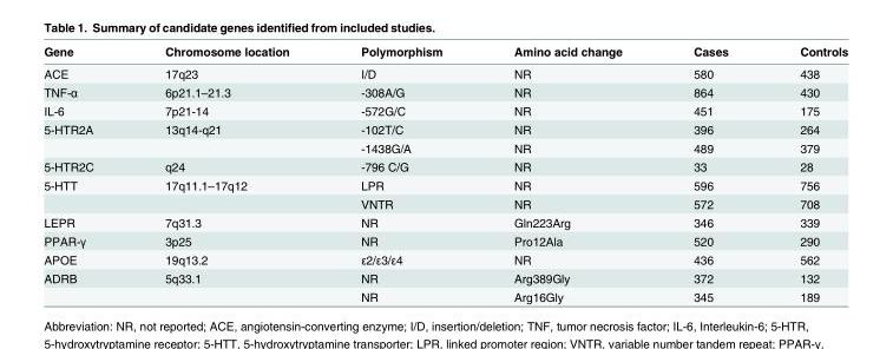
<table><thead><tr><td>Gene</td><td>Chromosome location</td><td>Polymorphism</td><td>Amino acid change</td><td>Cases</td><td>Controls</td></tr></thead><tbody><tr><td>ACE</td><td>17q23</td><td>I/D</td><td>NR</td><td>580</td><td>438</td></tr><tr><td>TNF-α</td><td>6p21.1–21.3</td><td>-308A/G</td><td>NR</td><td>864</td><td>430</td></tr><tr><td>IL-6</td><td>7p21-14</td><td>-572G/C</td><td>NR</td><td>451</td><td>175</td></tr><tr><td rowspan="2">5-HTR2A</td><td>13q14-q21</td><td>-102T/C</td><td>NR</td><td>396</td><td>264</td></tr><tr><td></td><td>-1438G/A</td><td>NR</td><td>489</td><td>379</td></tr><tr><td>5-HTR2C</td><td>q24</td><td>-796 C/G</td><td>NR</td><td>33</td><td>28</td></tr><tr><td rowspan="2">5-HTT</td><td>17q11.1–17q12</td><td>LPR</td><td>NR</td><td>596</td><td>756</td></tr><tr><td></td><td>VNTR</td><td>NR</td><td>572</td><td>708</td></tr><tr><td>LEPR</td><td>7q31.3</td><td>NR</td><td>Gln223Arg</td><td>346</td><td>339</td></tr><tr><td>PPAR-γ</td><td>3p25</td><td>NR</td><td>Pro12Ala</td><td>520</td><td>290</td></tr><tr><td>APOE</td><td>19q13.2</td><td>ε2/ε3/ε4</td><td>NR</td><td>436</td><td>562</td></tr><tr><td rowspan="2">ADRB</td><td>5q33.1</td><td>NR</td><td>Arg389Gly</td><td>372</td><td>132</td></tr><tr><td></td><td>NR</td><td>Arg16Gly</td><td>345</td><td>189</td></tr></tbody></table>